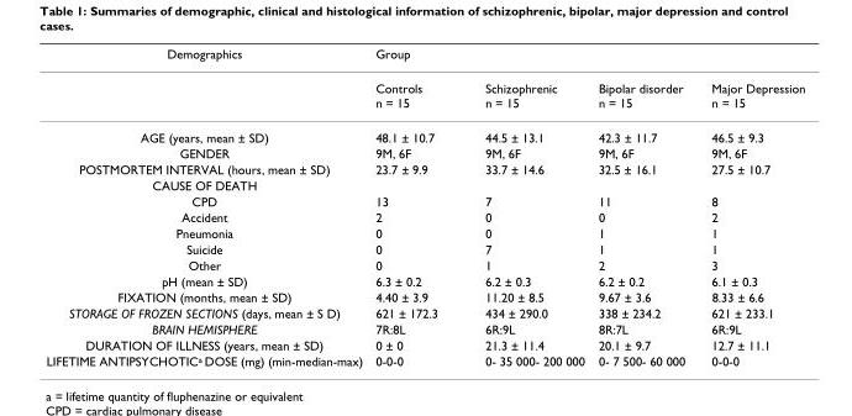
<table><thead><tr><td rowspan="2">Demographics</td><td colspan="4">Group</td></tr><tr><td>Controls n = 15</td><td>Schizophrenic n = 15</td><td>Bipolar disorder n = 15</td><td>Major Depression n = 15</td></tr></thead><tbody><tr><td>AGE (years, mean ± SD)</td><td>48.1 ± 10.7</td><td>44.5 ± 13.1</td><td>42.3 ± 11.7</td><td>46.5 ± 9.3</td></tr><tr><td>GENDER</td><td>9M, 6F</td><td>9M, 6F</td><td>9M, 6F</td><td>9M, 6F</td></tr><tr><td>POSTMORTEM INTERVAL (hours, mean ± SD)</td><td>23.7 ± 9.9</td><td>33.7 ± 14.6</td><td>32.5 ± 16.1</td><td>27.5 ± 10.7</td></tr><tr><td colspan="5">CAUSE OF DEATH</td></tr><tr><td>CPD</td><td>13</td><td>7</td><td>11</td><td>8</td></tr><tr><td>Accident</td><td>2</td><td>0</td><td>0</td><td>2</td></tr><tr><td>Pneumonia</td><td>0</td><td>0</td><td>1</td><td>1</td></tr><tr><td>Suicide</td><td>0</td><td>7</td><td>1</td><td>1</td></tr><tr><td>Other</td><td>0</td><td>1</td><td>2</td><td>3</td></tr><tr><td>pH (mean ± SD)</td><td>6.3 ± 0.2</td><td>6.2 ± 0.3</td><td>6.2 ± 0.2</td><td>6.1 ± 0.3</td></tr><tr><td>FIXATION (months, mean ± SD)</td><td>4.40 ± 3.9</td><td>11.20 ± 8.5</td><td>9.67 ± 3.6</td><td>8.33 ± 6.6</td></tr><tr><td>STORAGE OF FROZEN SECTIONS (days, mean ± S D)</td><td>621 ± 172.3</td><td>434 ± 290.0</td><td>338 ± 234.2</td><td>621 ± 233.1</td></tr><tr><td>BRAIN HEMISPHERE</td><td>7R:8L</td><td>6R:9L</td><td>8R:7L</td><td>6R:9L</td></tr><tr><td>DURATION OF ILLNESS (years, mean ± SD)</td><td>0 ± 0</td><td>21.3 ± 11.4</td><td>20.1 ± 9.7</td><td>12.7 ± 11.1</td></tr><tr><td>LIFETIME ANTIPSYCHOTIC<sup>a</sup> DOSE (mg) (min-median-max)</td><td>0-0-0</td><td>0- 35 000- 200 000</td><td>0- 7 500- 60 000</td><td>0-0-0</td></tr></tbody></table>